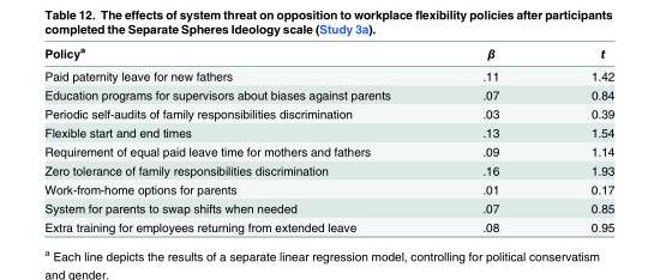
<table><thead><tr><td>Policy<sup>a</sup></td><td>β</td><td>t</td></tr></thead><tbody><tr><td>Paid paternity leave for new fathers</td><td>.11</td><td>1.42</td></tr><tr><td>Education programs for supervisors about biases against parents</td><td>.07</td><td>0.84</td></tr><tr><td>Periodic self-audits of family responsibilities discrimination</td><td>.03</td><td>0.39</td></tr><tr><td>Flexible start and end times</td><td>.13</td><td>1.54</td></tr><tr><td>Requirement of equal paid leave time for mothers and fathers</td><td>.09</td><td>1.14</td></tr><tr><td>Zero tolerance of family responsibilities discrimination</td><td>.16</td><td>1.93</td></tr><tr><td>Work-from-home options for parents</td><td>.01</td><td>0.17</td></tr><tr><td>System for parents to swap shifts when needed</td><td>.07</td><td>0.85</td></tr><tr><td>Extra training for employees returning from extended leave</td><td>.08</td><td>0.95</td></tr></tbody></table>